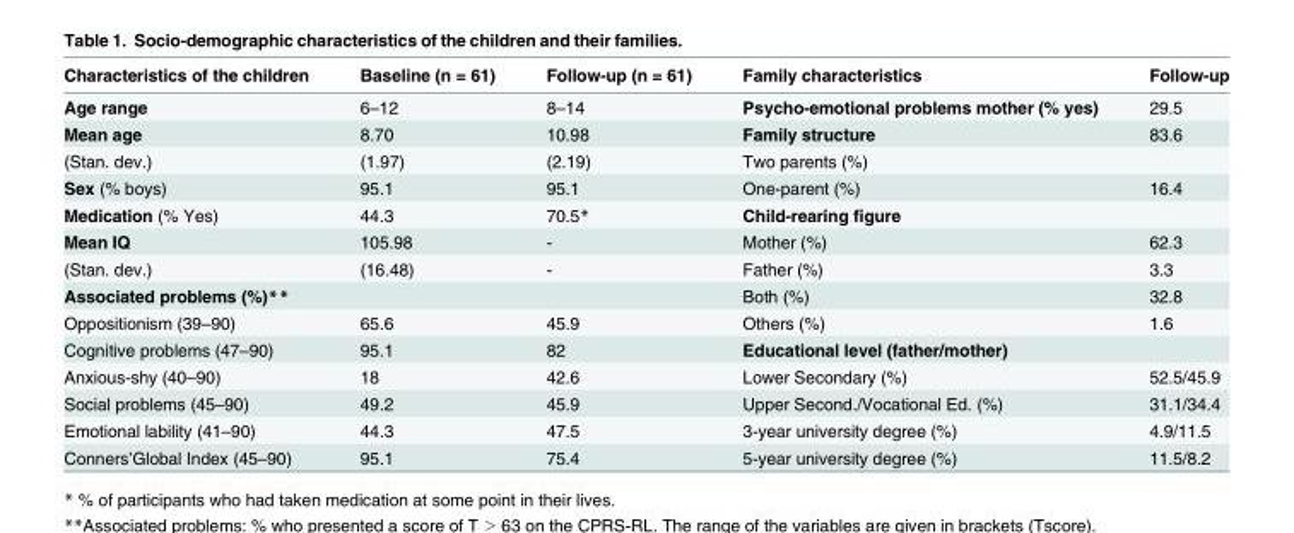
<table><thead><tr><td>Characteristics of the children</td><td>Baseline (n = 61)</td><td>Follow-up (n = 61)</td><td>Family characteristics</td><td>Follow-up</td></tr></thead><tbody><tr><td>Age range</td><td>6–12</td><td>8–14</td><td>Psycho-emotional problems mother (% yes)</td><td>29.5</td></tr><tr><td>Mean age</td><td>8.70</td><td>10.98</td><td>Family structure</td><td>83.6</td></tr><tr><td>(Stan. dev.)</td><td>(1.97)</td><td>(2.19)</td><td>Two parents (%)</td><td></td></tr><tr><td>Sex (% boys)</td><td>95.1</td><td>95.1</td><td>One-parent (%)</td><td>16.4</td></tr><tr><td>Medication (% Yes)</td><td>44.3</td><td>70.5*</td><td>Child-rearing figure</td><td></td></tr><tr><td>Mean IQ</td><td>105.98</td><td>-</td><td>Mother (%)</td><td>62.3</td></tr><tr><td>(Stan. dev.)</td><td>(16.48)</td><td>-</td><td>Father (%)</td><td>3.3</td></tr><tr><td>Associated problems (%)**</td><td></td><td></td><td>Both (%)</td><td>32.8</td></tr><tr><td>Oppositionism (39–90)</td><td>65.6</td><td>45.9</td><td>Others (%)</td><td>1.6</td></tr><tr><td>Cognitive problems (47–90)</td><td>95.1</td><td>82</td><td>Educational level (father/mother)</td><td></td></tr><tr><td>Anxious-shy (40–90)</td><td>18</td><td>42.6</td><td>Lower Secondary (%)</td><td>52.5/45.9</td></tr><tr><td>Social problems (45–90)</td><td>49.2</td><td>45.9</td><td>Upper Second./Vocational Ed. (%)</td><td>31.1/34.4</td></tr><tr><td>Emotional lability (41–90)</td><td>44.3</td><td>47.5</td><td>3-year university degree (%)</td><td>4.9/11.5</td></tr><tr><td>Conners’Global Index (45–90)</td><td>95.1</td><td>75.4</td><td>5-year university degree (%)</td><td>11.5/8.2</td></tr></tbody></table>